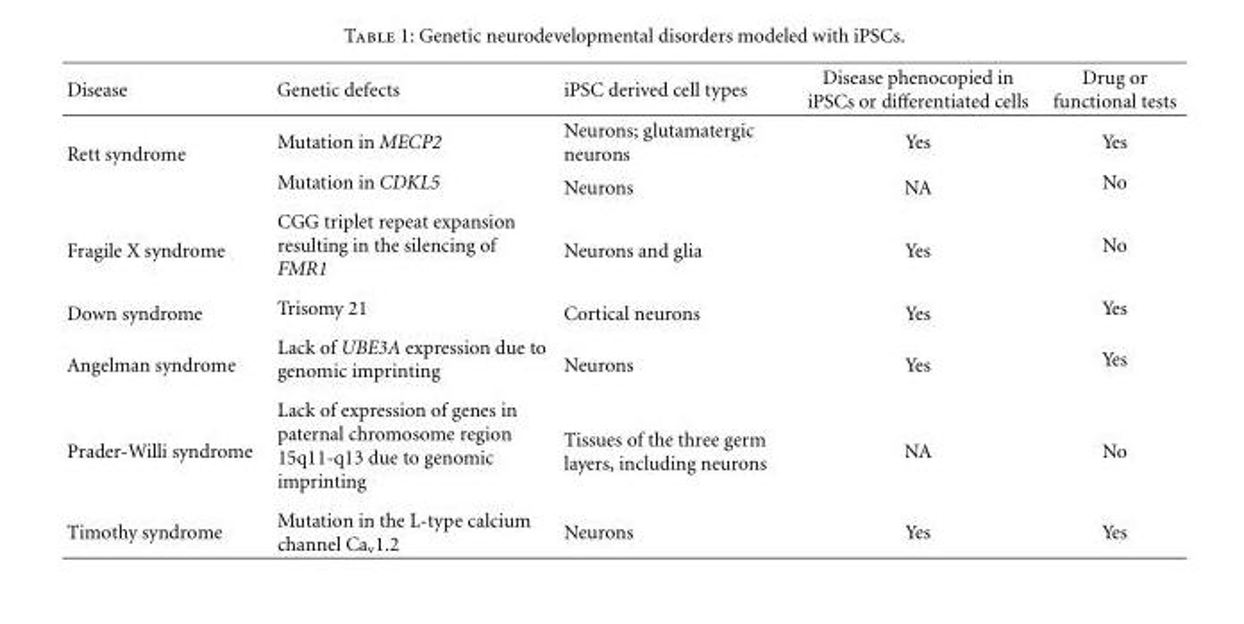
<table><thead><tr><td>Disease</td><td>Genetic defects</td><td>iPSC derived cell types</td><td>Disease phenocopied in iPSCs or differentiated cells</td><td>Drug or functional tests</td></tr></thead><tbody><tr><td rowspan="2">Rett syndrome</td><td>Mutation in MECP2</td><td>Neurons; glutamatergic neurons</td><td>Yes</td><td>Yes</td></tr><tr><td>Mutation in CDKL5</td><td>Neurons</td><td>NA</td><td>No</td></tr><tr><td>Fragile X syndrome</td><td>CGG triplet repeat expansion resulting in the silencing of FMR1</td><td>Neurons and glia</td><td>Yes</td><td>No</td></tr><tr><td>Down syndrome</td><td>Trisomy 21</td><td>Cortical neurons</td><td>Yes</td><td>Yes</td></tr><tr><td>Angelman syndrome</td><td>Lack of UBE3A expression due to genomic imprinting</td><td>Neurons</td><td>Yes</td><td>Yes</td></tr><tr><td>Prader-Willi syndrome</td><td>Lack of expression of genes in paternal chromosome region 15q11-q13 due to genomic imprinting</td><td>Tissues of the three germ layers, including neurons</td><td>NA</td><td>No</td></tr><tr><td>Timothy syndrome</td><td>Mutation in the L-type calcium channel Ca<sub>v</sub>1.2</td><td>Neurons</td><td>Yes</td><td>Yes</td></tr></tbody></table>